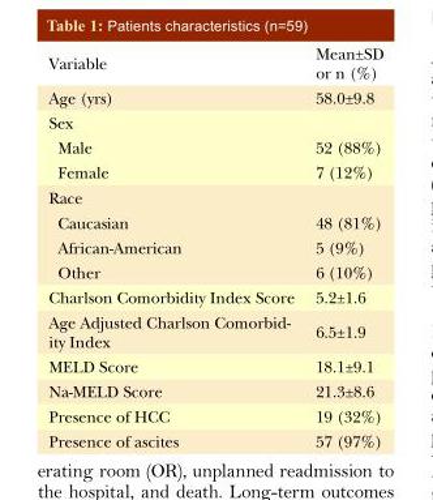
<table><thead><tr><td>Variable</td><td>Mean±SD or n (%)</td></tr></thead><tbody><tr><td>Age (yrs)</td><td>58.0±9.8</td></tr><tr><td colspan="2">Sex</td></tr><tr><td>Male</td><td>52 (88%)</td></tr><tr><td>Female</td><td>7 (12%)</td></tr><tr><td colspan="2">Race</td></tr><tr><td>Caucasian</td><td>48 (81%)</td></tr><tr><td>African-American</td><td>5 (9%)</td></tr><tr><td>Other</td><td>6 (10%)</td></tr><tr><td>Charlson Comorbidity Index Score</td><td>5.2±1.6</td></tr><tr><td>Age Adjusted Charlson Comorbid- ity Index</td><td>6.5±1.9</td></tr><tr><td>MELD Score</td><td>18.1±9.1</td></tr><tr><td>Na-MELD Score</td><td>21.3±8.6</td></tr><tr><td>Presence of HCC</td><td>19 (32%)</td></tr><tr><td>Presence of ascites</td><td>57 (97%)</td></tr></tbody></table>